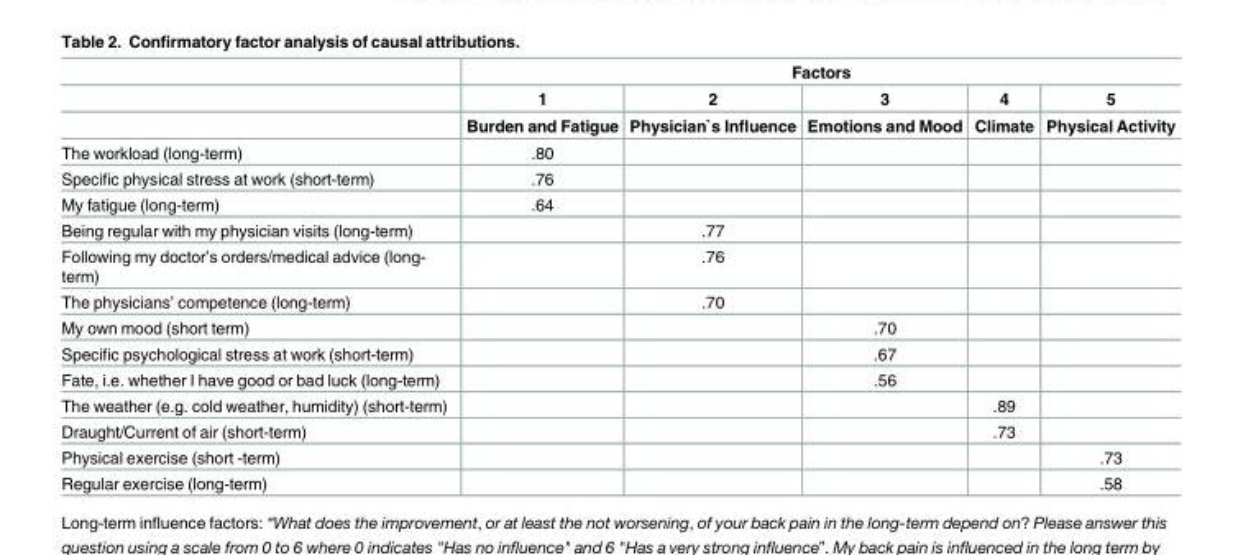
<table><thead><tr><td rowspan="3"></td><td colspan="5">Factors</td></tr><tr><td rowspan="2">1 Burden and Fatigue</td><td rowspan="2">2 Physician`s Influence</td><td rowspan="2">3 Emotions and Mood</td><td rowspan="2">4 Climate</td><td rowspan="2">5 Physical Activity</td></tr><tr></tr></thead><tbody><tr><td>The workload (long-term)</td><td>.80</td><td></td><td></td><td></td><td></td></tr><tr><td>Specific physical stress at work (short-term)</td><td>.76</td><td></td><td></td><td></td><td></td></tr><tr><td>My fatigue (long-term)</td><td>.64</td><td></td><td></td><td></td><td></td></tr><tr><td>Being regular with my physician visits (long-term)</td><td></td><td>.77</td><td></td><td></td><td></td></tr><tr><td>Following my doctor’s orders/medical advice (long- term)</td><td></td><td>.76</td><td></td><td></td><td></td></tr><tr><td>The physicians’ competence (long-term)</td><td></td><td>.70</td><td></td><td></td><td></td></tr><tr><td>My own mood (short term)</td><td></td><td></td><td>.70</td><td></td><td></td></tr><tr><td>Specific psychological stress at work (short-term)</td><td></td><td></td><td>.67</td><td></td><td></td></tr><tr><td>Fate, i.e. whether I have good or bad luck (long-term)</td><td></td><td></td><td>.56</td><td></td><td></td></tr><tr><td>The weather (e.g. cold weather, humidity) (short-term)</td><td></td><td></td><td></td><td>.89</td><td></td></tr><tr><td>Draught/Current of air (short-term)</td><td></td><td></td><td></td><td>.73</td><td></td></tr><tr><td>Physical exercise (short -term)</td><td></td><td></td><td></td><td></td><td>.73</td></tr><tr><td>Regular exercise (long-term)</td><td></td><td></td><td></td><td></td><td>.58</td></tr></tbody></table>